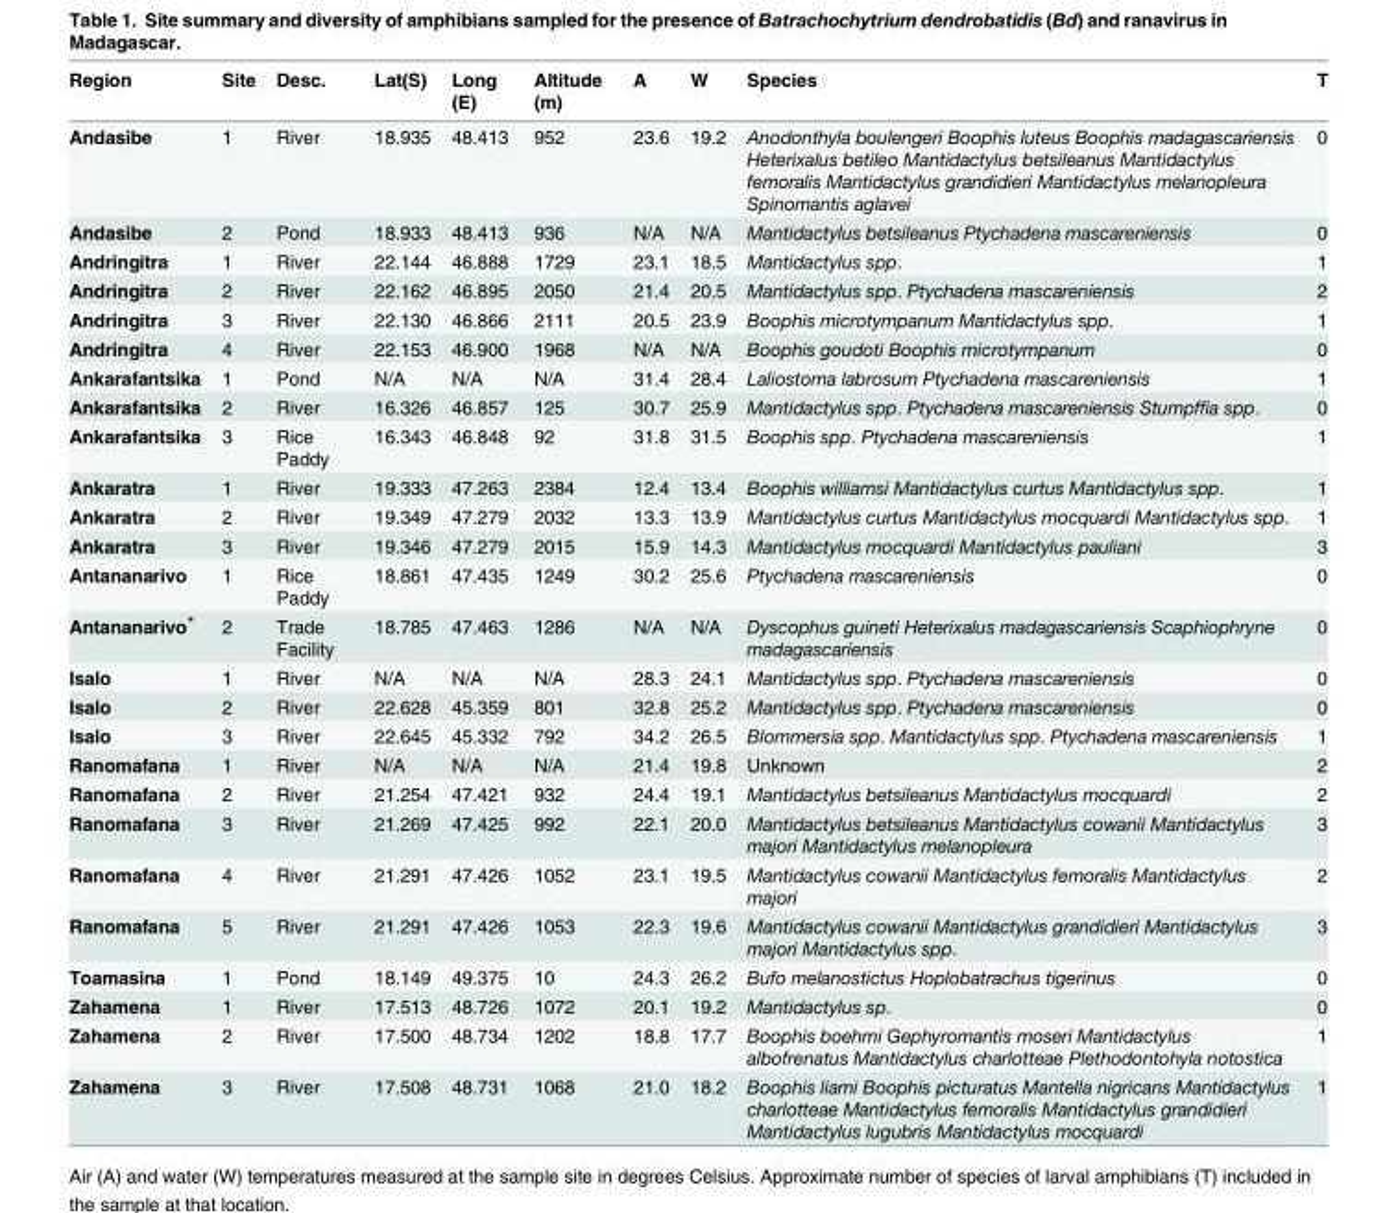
<table><thead><tr><td>Region</td><td>Site</td><td>Desc.</td><td>Lat(S)</td><td>Long (E)</td><td>Altitude (m)</td><td>A</td><td>W</td><td>Species</td><td>T</td></tr></thead><tbody><tr><td>Andasibe</td><td>1</td><td>River</td><td>18.935</td><td>48.413</td><td>952</td><td>23.6</td><td>19.2</td><td>Anodonthyla boulengeri Boophis luteus Boophis madagascariensis Heterixalus betileo Mantidactylus betsileanus Mantidactylus femoralis Mantidactylus grandidieri Mantidactylus melanopleura Spinomantis aglavei</td><td>0</td></tr><tr><td>Andasibe</td><td>2</td><td>Pond</td><td>18.933</td><td>48.413</td><td>936</td><td>N/A</td><td>N/A</td><td>Mantidactylus betsileanus Ptychadena mascareniensis</td><td>0</td></tr><tr><td>Andringitra</td><td>1</td><td>River</td><td>22.144</td><td>46.888</td><td>1729</td><td>23.1</td><td>18.5</td><td>Mantidactylus spp.</td><td>1</td></tr><tr><td>Andringitra</td><td>2</td><td>River</td><td>22.162</td><td>46.895</td><td>2050</td><td>21.4</td><td>20.5</td><td>Mantidactylus spp. Ptychadena mascareniensis</td><td>2</td></tr><tr><td>Andringitra</td><td>3</td><td>River</td><td>22.130</td><td>46.866</td><td>2111</td><td>20.5</td><td>23.9</td><td>Boophis microtympanum Mantidactylus spp.</td><td>1</td></tr><tr><td>Andringitra</td><td>4</td><td>River</td><td>22.153</td><td>46.900</td><td>1968</td><td>N/A</td><td>N/A</td><td>Boophis goudoti Boophis microtympanum</td><td>0</td></tr><tr><td>Ankarafantsika</td><td>1</td><td>Pond</td><td>N/A</td><td>N/A</td><td>N/A</td><td>31.4</td><td>28.4</td><td>Laliostoma labrosum Ptychadena mascareniensis</td><td>1</td></tr><tr><td>Ankarafantsika</td><td>2</td><td>River</td><td>16.326</td><td>46.857</td><td>125</td><td>30.7</td><td>25.9</td><td>Mantidactylus spp. Ptychadena mascareniensis Stumpffia spp.</td><td>0</td></tr><tr><td>Ankarafantsika</td><td>3</td><td>Rice Paddy</td><td>16.343</td><td>46.848</td><td>92</td><td>31.8</td><td>31.5</td><td>Boophis spp. Ptychadena mascareniensis</td><td>1</td></tr><tr><td>Ankaratra</td><td>1</td><td>River</td><td>19.333</td><td>47.263</td><td>2384</td><td>12.4</td><td>13.4</td><td>Boophis williamsi Mantidactylus curtus Mantidactylus spp.</td><td>1</td></tr><tr><td>Ankaratra</td><td>2</td><td>River</td><td>19.349</td><td>47.279</td><td>2032</td><td>13.3</td><td>13.9</td><td>Mantidactylus curtus Mantidactylus mocquardi Mantidactylus spp.</td><td>1</td></tr><tr><td>Ankaratra</td><td>3</td><td>River</td><td>19.346</td><td>47.279</td><td>2015</td><td>15.9</td><td>14.3</td><td>Mantidactylus mocquardi Mantidactylus pauliani</td><td>3</td></tr><tr><td>Antananarivo</td><td>1</td><td>Rice Paddy</td><td>18.861</td><td>47.435</td><td>1249</td><td>30.2</td><td>25.6</td><td>Ptychadena mascareniensis</td><td>0</td></tr><tr><td>Antananarivo*</td><td>2</td><td>Trade Facility</td><td>18.785</td><td>47.463</td><td>1286</td><td>N/A</td><td>N/A</td><td>Dyscophus guineti Heterixalus madagascariensis Scaphiophryne madagascariensis</td><td>0</td></tr><tr><td>Isalo</td><td>1</td><td>River</td><td>N/A</td><td>N/A</td><td>N/A</td><td>28.3</td><td>24.1</td><td>Mantidactylus spp. Ptychadena mascareniensis</td><td>0</td></tr><tr><td>Isalo</td><td>2</td><td>River</td><td>22.628</td><td>45.359</td><td>801</td><td>32.8</td><td>25.2</td><td>Mantidactylus spp. Ptychadena mascareniensis</td><td>0</td></tr><tr><td>Isalo</td><td>3</td><td>River</td><td>22.645</td><td>45.332</td><td>792</td><td>34.2</td><td>26.5</td><td>Blommersia spp. Mantidactylus spp. Ptychadena mascareniensis</td><td>1</td></tr><tr><td>Ranomafana</td><td>1</td><td>River</td><td>N/A</td><td>N/A</td><td>N/A</td><td>21.4</td><td>19.8</td><td>Unknown</td><td>2</td></tr><tr><td>Ranomafana</td><td>2</td><td>River</td><td>21.254</td><td>47.421</td><td>932</td><td>24.4</td><td>19.1</td><td>Mantidactylus betsileanus Mantidactylus mocquardi</td><td>2</td></tr><tr><td>Ranomafana</td><td>3</td><td>River</td><td>21.269</td><td>47.425</td><td>992</td><td>22.1</td><td>20.0</td><td>Mantidactylus betsileanus Mantidactylus cowanii Mantidactylus majori Mantidactylus melanopleura</td><td>3</td></tr><tr><td>Ranomafana</td><td>4</td><td>River</td><td>21.291</td><td>47.426</td><td>1052</td><td>23.1</td><td>19.5</td><td>Mantidactylus cowanii Mantidactylus femoralis Mantidactylus majori</td><td>2</td></tr><tr><td>Ranomafana</td><td>5</td><td>River</td><td>21.291</td><td>47.426</td><td>1053</td><td>22.3</td><td>19.6</td><td>Mantidactylus cowanii Mantidactylus grandidieri Mantidactylus majori Mantidactylus spp.</td><td>3</td></tr><tr><td>Toamasina</td><td>1</td><td>Pond</td><td>18.149</td><td>49.375</td><td>10</td><td>24.3</td><td>26.2</td><td>Bufo melanostictus Hoplobatrachus tigerinus</td><td>0</td></tr><tr><td>Zahamena</td><td>1</td><td>River</td><td>17.513</td><td>48.726</td><td>1072</td><td>20.1</td><td>19.2</td><td>Mantidactylus sp.</td><td>0</td></tr><tr><td>Zahamena</td><td>2</td><td>River</td><td>17.500</td><td>48.734</td><td>1202</td><td>18.8</td><td>17.7</td><td>Boophis boehmi Gephyromantis moseri Mantidactylus albofrenatus Mantidactylus charlotteae Plethodontohyla notostica</td><td>1</td></tr><tr><td>Zahamena</td><td>3</td><td>River</td><td>17.508</td><td>48.731</td><td>1068</td><td>21.0</td><td>18.2</td><td>Boophis liami Boophis picturatus Mantella nigricans Mantidactylus charlotteae Mantidactylus femoralis Mantidactylus grandidieri Mantidactylus lugubris Mantidactylus mocquardi</td><td>1</td></tr></tbody></table>